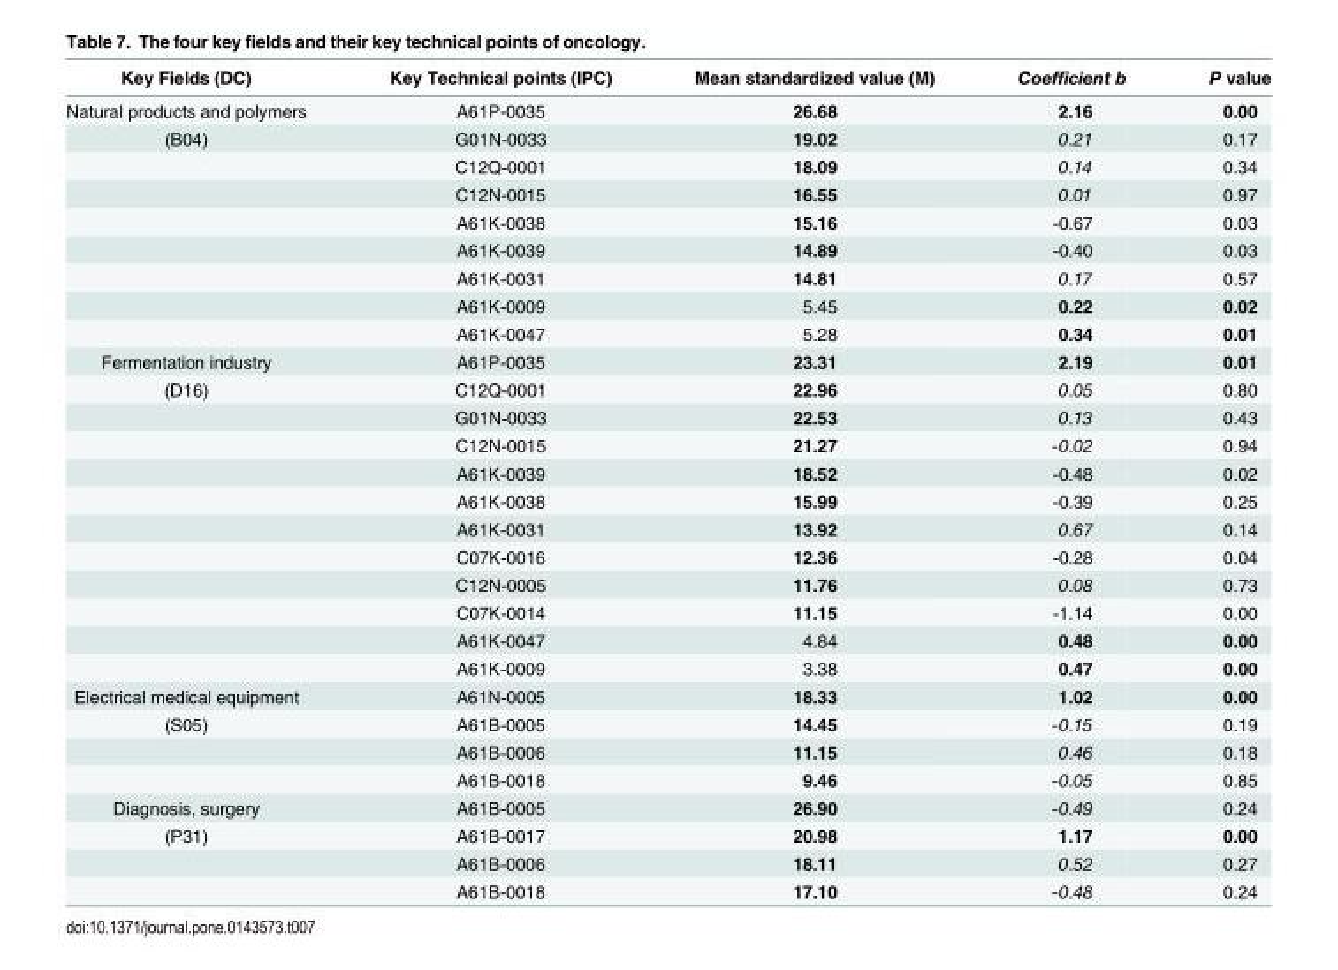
<table><thead><tr><td>Key Fields (DC)</td><td>Key Technical points (IPC)</td><td>Mean standardized value (M)</td><td>Coefficient b</td><td>P value</td></tr></thead><tbody><tr><td>Natural products and polymers</td><td>A61P-0035</td><td>26.68</td><td>2.16</td><td>0.00</td></tr><tr><td rowspan="8">(B04)</td><td>G01N-0033</td><td>19.02</td><td>0.21</td><td>0.17</td></tr><tr><td>C12Q-0001</td><td>18.09</td><td>0.14</td><td>0.34</td></tr><tr><td>C12N-0015</td><td>16.55</td><td>0.01</td><td>0.97</td></tr><tr><td>A61K-0038</td><td>15.16</td><td>-0.67</td><td>0.03</td></tr><tr><td>A61K-0039</td><td>14.89</td><td>-0.40</td><td>0.03</td></tr><tr><td>A61K-0031</td><td>14.81</td><td>0.17</td><td>0.57</td></tr><tr><td>A61K-0009</td><td>5.45</td><td>0.22</td><td>0.02</td></tr><tr><td>A61K-0047</td><td>5.28</td><td>0.34</td><td>0.01</td></tr><tr><td>Fermentation industry</td><td>A61P-0035</td><td>23.31</td><td>2.19</td><td>0.01</td></tr><tr><td rowspan="11">(D16)</td><td>C12Q-0001</td><td>22.96</td><td>0.05</td><td>0.80</td></tr><tr><td>G01N-0033</td><td>22.53</td><td>0.13</td><td>0.43</td></tr><tr><td>C12N-0015</td><td>21.27</td><td>-0.02</td><td>0.94</td></tr><tr><td>A61K-0039</td><td>18.52</td><td>-0.48</td><td>0.02</td></tr><tr><td>A61K-0038</td><td>15.99</td><td>-0.39</td><td>0.25</td></tr><tr><td>A61K-0031</td><td>13.92</td><td>0.67</td><td>0.14</td></tr><tr><td>C07K-0016</td><td>12.36</td><td>-0.28</td><td>0.04</td></tr><tr><td>C12N-0005</td><td>11.76</td><td>0.08</td><td>0.73</td></tr><tr><td>C07K-0014</td><td>11.15</td><td>-1.14</td><td>0.00</td></tr><tr><td>A61K-0047</td><td>4.84</td><td>0.48</td><td>0.00</td></tr><tr><td>A61K-0009</td><td>3.38</td><td>0.47</td><td>0.00</td></tr><tr><td>Electrical medical equipment</td><td>A61N-0005</td><td>18.33</td><td>1.02</td><td>0.00</td></tr><tr><td rowspan="3">(S05)</td><td>A61B-0005</td><td>14.45</td><td>-0.15</td><td>0.19</td></tr><tr><td>A61B-0006</td><td>11.15</td><td>0.46</td><td>0.18</td></tr><tr><td>A61B-0018</td><td>9.46</td><td>-0.05</td><td>0.85</td></tr><tr><td>Diagnosis, surgery</td><td>A61B-0005</td><td>26.90</td><td>-0.49</td><td>0.24</td></tr><tr><td rowspan="3">(P31)</td><td>A61B-0017</td><td>20.98</td><td>1.17</td><td>0.00</td></tr><tr><td>A61B-0006</td><td>18.11</td><td>0.52</td><td>0.27</td></tr><tr><td>A61B-0018</td><td>17.10</td><td>-0.48</td><td>0.24</td></tr></tbody></table>